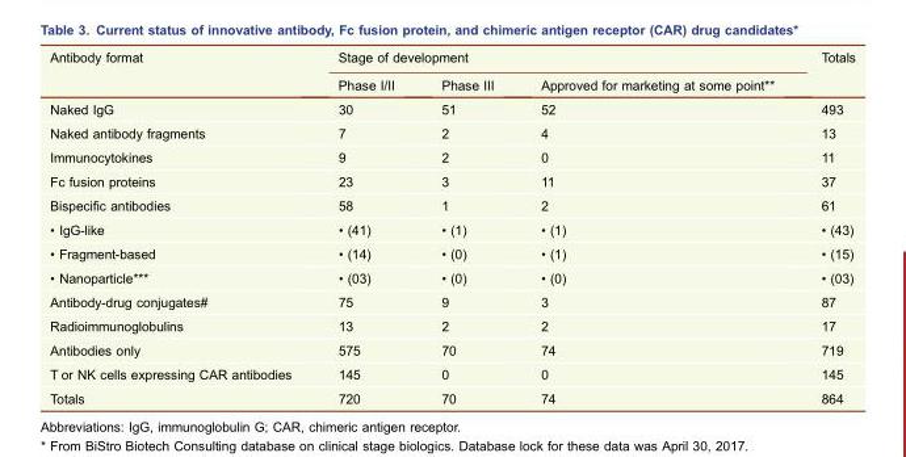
<table><thead><tr><td rowspan="2">Antibody format</td><td colspan="3">Stage of development</td><td rowspan="2">Totals</td></tr><tr><td>Phase I/II</td><td>Phase III</td><td>Approved for marketing at some point**</td></tr></thead><tbody><tr><td>Naked IgG</td><td>30</td><td>51</td><td>52</td><td>493</td></tr><tr><td>Naked antibody fragments</td><td>7</td><td>2</td><td>4</td><td>13</td></tr><tr><td>Immunocytokines</td><td>9</td><td>2</td><td>0</td><td>11</td></tr><tr><td>Fc fusion proteins</td><td>23</td><td>3</td><td>11</td><td>37</td></tr><tr><td>Bispecific antibodies</td><td>58</td><td>1</td><td>2</td><td>61</td></tr><tr><td>• IgG-like</td><td>• (41)</td><td>• (1)</td><td>• (1)</td><td>• (43)</td></tr><tr><td>• Fragment-based</td><td>• (14)</td><td>• (0)</td><td>• (1)</td><td>• (15)</td></tr><tr><td>• Nanoparticle***</td><td>• (03)</td><td>• (0)</td><td>• (0)</td><td>• (03)</td></tr><tr><td>Antibody-drug conjugates#</td><td>75</td><td>9</td><td>3</td><td>87</td></tr><tr><td>Radioimmunoglobulins</td><td>13</td><td>2</td><td>2</td><td>17</td></tr><tr><td>Antibodies only</td><td>575</td><td>70</td><td>74</td><td>719</td></tr><tr><td>T or NK cells expressing CAR antibodies</td><td>145</td><td>0</td><td>0</td><td>145</td></tr><tr><td>Totals</td><td>720</td><td>70</td><td>74</td><td>864</td></tr></tbody></table>